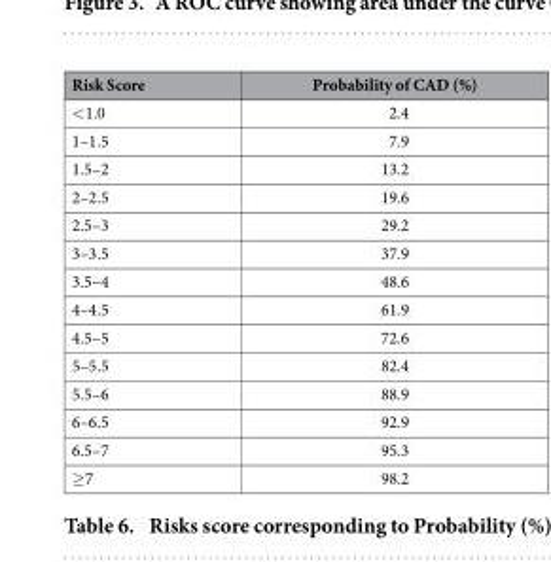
<table><thead><tr><td>Risk Score</td><td>Probability of CAD (%)</td></tr></thead><tbody><tr><td>&lt; 1.0</td><td>2.4</td></tr><tr><td>1–1.5</td><td>7.9</td></tr><tr><td>1.5–2</td><td>13.2</td></tr><tr><td>2–2.5</td><td>19.6</td></tr><tr><td>2.5–3</td><td>29.2</td></tr><tr><td>3–3.5</td><td>37.9</td></tr><tr><td>3.5–4</td><td>48.6</td></tr><tr><td>4–4.5</td><td>61.9</td></tr><tr><td>4.5–5</td><td>72.6</td></tr><tr><td>5–5.5</td><td>82.4</td></tr><tr><td>5.5–6</td><td>88.9</td></tr><tr><td>6–6.5</td><td>92.9</td></tr><tr><td>6.5–7</td><td>95.3</td></tr><tr><td>≥ 7</td><td>98.2</td></tr></tbody></table>